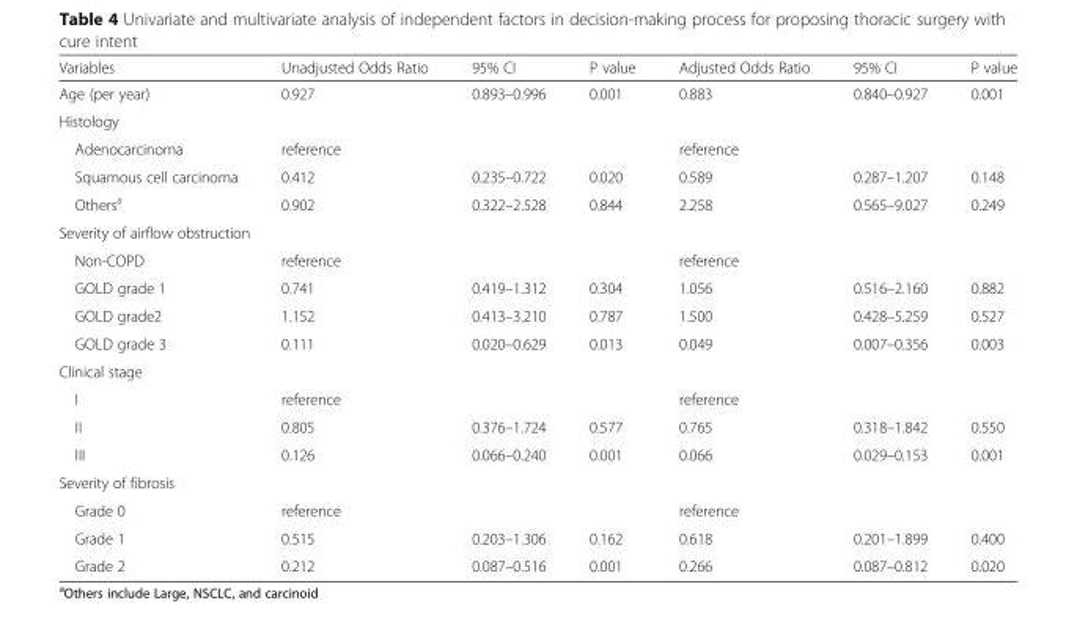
<table><thead><tr><td>Variables</td><td>Unadjusted Odds Ratio</td><td>95% CI</td><td>P value</td><td>Adjusted Odds Ratio</td><td>95% CI</td><td>P value</td></tr></thead><tbody><tr><td>Age (per year)</td><td>0.927</td><td>0.893–0.996</td><td>0.001</td><td>0.883</td><td>0.840–0.927</td><td>0.001</td></tr><tr><td colspan="7">Histology</td></tr><tr><td>Adenocarcinoma</td><td>reference</td><td></td><td></td><td>reference</td><td></td><td></td></tr><tr><td>Squamous cell carcinoma</td><td>0.412</td><td>0.235–0.722</td><td>0.020</td><td>0.589</td><td>0.287–1.207</td><td>0.148</td></tr><tr><td>Others<sup>a</sup></td><td>0.902</td><td>0.322–2.528</td><td>0.844</td><td>2.258</td><td>0.565–9.027</td><td>0.249</td></tr><tr><td colspan="7">Severity of airflow obstruction</td></tr><tr><td>Non-COPD</td><td>reference</td><td></td><td></td><td>reference</td><td></td><td></td></tr><tr><td>GOLD grade 1</td><td>0.741</td><td>0.419–1.312</td><td>0.304</td><td>1.056</td><td>0.516–2.160</td><td>0.882</td></tr><tr><td>GOLD grade2</td><td>1.152</td><td>0.413–3.210</td><td>0.787</td><td>1.500</td><td>0.428–5.259</td><td>0.527</td></tr><tr><td>GOLD grade 3</td><td>0.111</td><td>0.020–0.629</td><td>0.013</td><td>0.049</td><td>0.007–0.356</td><td>0.003</td></tr><tr><td colspan="7">Clinical stage</td></tr><tr><td>I</td><td>reference</td><td></td><td></td><td>reference</td><td></td><td></td></tr><tr><td>II</td><td>0.805</td><td>0.376–1.724</td><td>0.577</td><td>0.765</td><td>0.318–1.842</td><td>0.550</td></tr><tr><td>III</td><td>0.126</td><td>0.066–0.240</td><td>0.001</td><td>0.066</td><td>0.029–0.153</td><td>0.001</td></tr><tr><td colspan="7">Severity of fibrosis</td></tr><tr><td>Grade 0</td><td>reference</td><td></td><td></td><td>reference</td><td></td><td></td></tr><tr><td>Grade 1</td><td>0.515</td><td>0.203–1.306</td><td>0.162</td><td>0.618</td><td>0.201–1.899</td><td>0.400</td></tr><tr><td>Grade 2</td><td>0.212</td><td>0.087–0.516</td><td>0.001</td><td>0.266</td><td>0.087–0.812</td><td>0.020</td></tr></tbody></table>